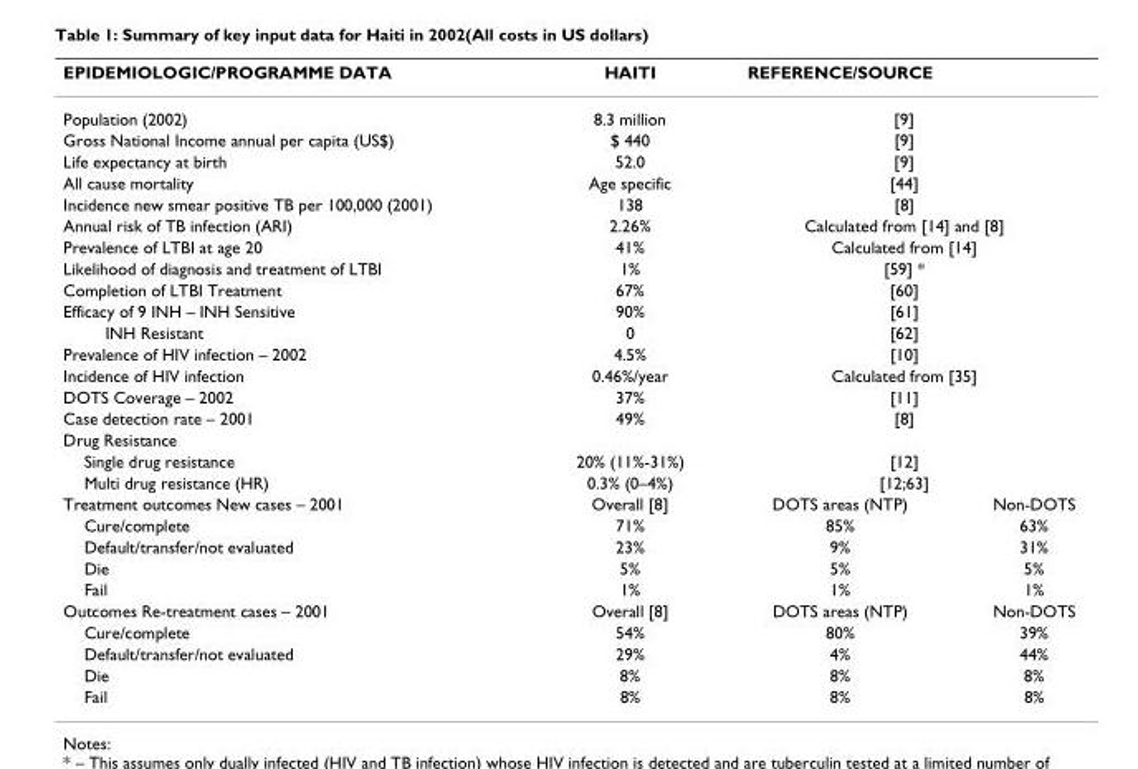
<table><thead><tr><td>EPIDEMIOLOGIC/PROGRAMME DATA</td><td>HAITI</td><td>REFERENCE/SOURCE</td><td></td></tr></thead><tbody><tr><td>Population (2002)</td><td>8.3 million</td><td colspan="2">[9]</td></tr><tr><td>Gross National Income annual per capita (US$)</td><td>$ 440</td><td colspan="2">[9]</td></tr><tr><td>Life expectancy at birth</td><td>52.0</td><td colspan="2">[9]</td></tr><tr><td>All cause mortality</td><td>Age specific</td><td colspan="2">[44]</td></tr><tr><td>Incidence new smear positive TB per 100,000 (2001)</td><td>138</td><td colspan="2">[8]</td></tr><tr><td>Annual risk of TB infection (ARI)</td><td>2.26%</td><td colspan="2">Calculated from [14] and [8]</td></tr><tr><td>Prevalence of LTBI at age 20</td><td>41%</td><td colspan="2">Calculated from [14]</td></tr><tr><td>Likelihood of diagnosis and treatment of LTBI</td><td>1%</td><td colspan="2">[59] *</td></tr><tr><td>Completion of LTBI Treatment</td><td>67%</td><td colspan="2">[60]</td></tr><tr><td>Efficacy of 9 INH – INH Sensitive</td><td>90%</td><td colspan="2">[61]</td></tr><tr><td>INH Resistant</td><td>0</td><td colspan="2">[62]</td></tr><tr><td>Prevalence of HIV infection – 2002</td><td>4.5%</td><td colspan="2">[10]</td></tr><tr><td>Incidence of HIV infection</td><td>0.46%/year</td><td colspan="2">Calculated from [35]</td></tr><tr><td>DOTS Coverage – 2002</td><td>37%</td><td colspan="2">[11]</td></tr><tr><td>Case detection rate – 2001</td><td>49%</td><td colspan="2">[8]</td></tr><tr><td colspan="4">Drug Resistance</td></tr><tr><td>Single drug resistance</td><td>20% (11%-31%)</td><td colspan="2">[12]</td></tr><tr><td>Multi drug resistance (HR)</td><td>0.3% (0–4%)</td><td colspan="2">[12;63]</td></tr><tr><td>Treatment outcomes New cases – 2001</td><td>Overall [8]</td><td>DOTS areas (NTP)</td><td>Non-DOTS</td></tr><tr><td>Cure/complete</td><td>71%</td><td>85%</td><td>63%</td></tr><tr><td>Default/transfer/not evaluated</td><td>23%</td><td>9%</td><td>31%</td></tr><tr><td>Die</td><td>5%</td><td>5%</td><td>5%</td></tr><tr><td>Fail</td><td>1%</td><td>1%</td><td>1%</td></tr><tr><td>Outcomes Re-treatment cases – 2001</td><td>Overall [8]</td><td>DOTS areas (NTP)</td><td>Non-DOTS</td></tr><tr><td>Cure/complete</td><td>54%</td><td>80%</td><td>39%</td></tr><tr><td>Default/transfer/not evaluated</td><td>29%</td><td>4%</td><td>44%</td></tr><tr><td>Die</td><td>8%</td><td>8%</td><td>8%</td></tr><tr><td>Fail</td><td>8%</td><td>8%</td><td>8%</td></tr></tbody></table>